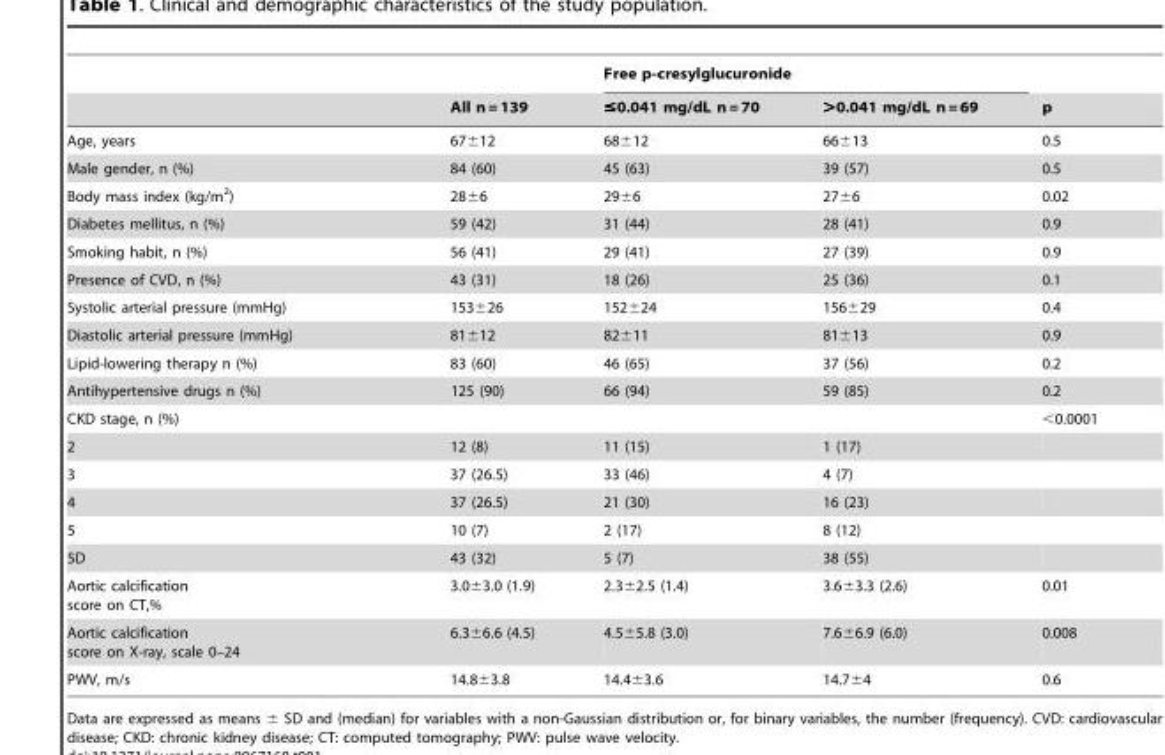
<table><thead><tr><td rowspan="2"></td><td rowspan="2">All n = 139</td><td colspan="2">Free p-cresylglucuronide</td><td rowspan="2">p</td></tr><tr><td>≤0.041 mg/dL n = 70</td><td>&gt;0.041 mg/dL n = 69</td></tr></thead><tbody><tr><td>Age, years</td><td>67±12</td><td>68±12</td><td>66±13</td><td>0.5</td></tr><tr><td>Male gender, n (%)</td><td>84 (60)</td><td>45 (63)</td><td>39 (57)</td><td>0.5</td></tr><tr><td>Body mass index (kg/m<sup>2</sup>)</td><td>28±6</td><td>29±6</td><td>27±6</td><td>0.02</td></tr><tr><td>Diabetes mellitus, n (%)</td><td>59 (42)</td><td>31 (44)</td><td>28 (41)</td><td>0.9</td></tr><tr><td>Smoking habit, n (%)</td><td>56 (41)</td><td>29 (41)</td><td>27 (39)</td><td>0.9</td></tr><tr><td>Presence of CVD, n (%)</td><td>43 (31)</td><td>18 (26)</td><td>25 (36)</td><td>0.1</td></tr><tr><td>Systolic arterial pressure (mmHg)</td><td>153±26</td><td>152±24</td><td>156±29</td><td>0.4</td></tr><tr><td>Diastolic arterial pressure (mmHg)</td><td>81±12</td><td>82±11</td><td>81±13</td><td>0.9</td></tr><tr><td>Lipid-lowering therapy n (%)</td><td>83 (60)</td><td>46 (65)</td><td>37 (56)</td><td>0.2</td></tr><tr><td>Antihypertensive drugs n (%)</td><td>125 (90)</td><td>66 (94)</td><td>59 (85)</td><td>0.2</td></tr><tr><td>CKD stage, n (%)</td><td></td><td></td><td></td><td>&lt;0.0001</td></tr><tr><td>2</td><td>12 (8)</td><td>11 (15)</td><td>1 (17)</td><td></td></tr><tr><td>3</td><td>37 (26.5)</td><td>33 (46)</td><td>4 (7)</td><td></td></tr><tr><td>4</td><td>37 (26.5)</td><td>21 (30)</td><td>16 (23)</td><td></td></tr><tr><td>5</td><td>10 (7)</td><td>2 (17)</td><td>8 (12)</td><td></td></tr><tr><td>5D</td><td>43 (32)</td><td>5 (7)</td><td>38 (55)</td><td></td></tr><tr><td>Aortic calcification score on CT,%</td><td>3.0±3.0 (1.9)</td><td>2.3±2.5 (1.4)</td><td>3.6±3.3 (2.6)</td><td>0.01</td></tr><tr><td>Aortic calcification score on X-ray, scale 0–24</td><td>6.3±6.6 (4.5)</td><td>4.5±5.8 (3.0)</td><td>7.6±6.9 (6.0)</td><td>0.008</td></tr><tr><td>PWV, m/s</td><td>14.8±3.8</td><td>14.4±3.6</td><td>14.7±4</td><td>0.6</td></tr></tbody></table>